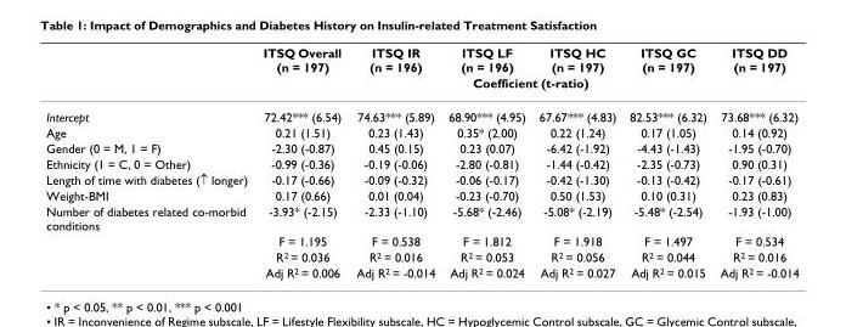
<table><thead><tr><td rowspan="2"></td><td>ITSQ Overall (n = 197)</td><td>ITSQ IR (n = 196)</td><td>ITSQ LF (n = 196)</td><td>ITSQ HC (n = 197)</td><td>ITSQ GC (n = 197)</td><td>ITSQ DD (n = 197)</td></tr><tr><td colspan="6">Coefficient (t-ratio)</td></tr></thead><tbody><tr><td>Intercept</td><td>72.42*** (6.54)</td><td>74.63*** (5.89)</td><td>68.90*** (4.95)</td><td>67.67*** (4.83)</td><td>82.53*** (6.32)</td><td>73.68*** (6.32)</td></tr><tr><td>Age</td><td>0.21 (1.51)</td><td>0.23 (1.43)</td><td>0.35* (2.00)</td><td>0.22 (1.24)</td><td>0.17 (1.05)</td><td>0.14 (0.92)</td></tr><tr><td>Gender (0 = M, 1 = F)</td><td>-2.30 (-0.87)</td><td>0.45 (0.15)</td><td>0.23 (0.07)</td><td>-6.42 (-1.92)</td><td>-4.43 (-1.43)</td><td>-1.95 (-0.70)</td></tr><tr><td>Ethnicity (1 = C, 0 = Other)</td><td>-0.99 (-0.36)</td><td>-0.19 (-0.06)</td><td>-2.80 (-0.81)</td><td>-1.44 (-0.42)</td><td>-2.35 (-0.73)</td><td>0.90 (0.31)</td></tr><tr><td>Length of time with diabetes (↑ longer)</td><td>-0.17 (-0.66)</td><td>-0.09 (-0.32)</td><td>-0.06 (-0.17)</td><td>-0.42 (-1.30)</td><td>-0.13 (-0.42)</td><td>-0.17 (-0.61)</td></tr><tr><td>Weight-BMI</td><td>0.17 (0.66)</td><td>0.01 (0.04)</td><td>-0.23 (-0.70)</td><td>0.50 (1.53)</td><td>0.10 (0.31)</td><td>0.23 (0.83)</td></tr><tr><td rowspan="4">Number of diabetes related co-morbid conditions</td><td>-3.93* (-2.15)</td><td>-2.33 (-1.10)</td><td>-5.68* (-2.46)</td><td>-5.08* (-2.19)</td><td>-5.48* (-2.54)</td><td>-1.93 (-1.00)</td></tr><tr><td>F = 1.195</td><td>F = 0.538</td><td>F = 1.812</td><td>F = 1.918</td><td>F = 1.497</td><td>F = 0.534</td></tr><tr><td>R<sup>2</sup> = 0.036</td><td>R<sup>2</sup> = 0.016</td><td>R<sup>2</sup> = 0.053</td><td>R<sup>2</sup> = 0.056</td><td>R<sup>2</sup> = 0.044</td><td>R<sup>2</sup> = 0.016</td></tr><tr><td>Adj R<sup>2</sup> = 0.006</td><td>Adj R<sup>2</sup> = -0.014</td><td>Adj R<sup>2</sup> = 0.024</td><td>Adj R<sup>2</sup> = 0.027</td><td>Adj R<sup>2</sup> = 0.015</td><td>Adj R<sup>2</sup> = -0.014</td></tr></tbody></table>